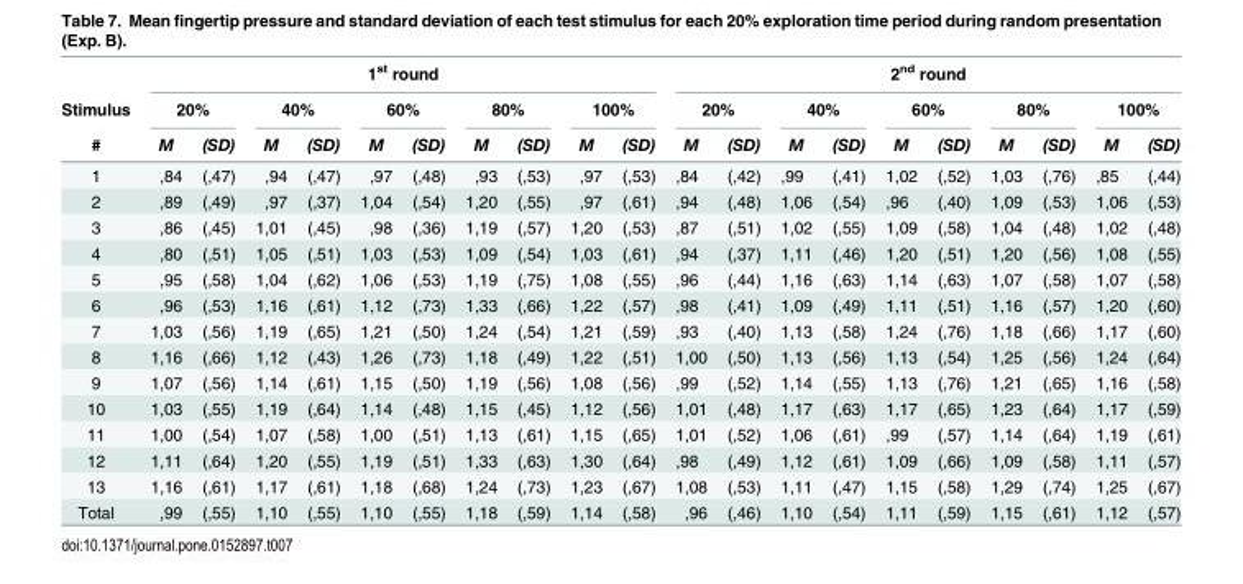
<table><thead><tr><td rowspan="3">Stimulus #</td><td colspan="10">1<sup>st</sup> round</td><td colspan="10">2<sup>nd</sup> round</td></tr><tr><td colspan="2">20%</td><td colspan="2">40%</td><td colspan="2">60%</td><td colspan="2">80%</td><td colspan="2">100%</td><td colspan="2">20%</td><td colspan="2">40%</td><td colspan="2">60%</td><td colspan="2">80%</td><td colspan="2">100%</td></tr><tr><td>M</td><td>(SD)</td><td>M</td><td>(SD)</td><td>M</td><td>(SD)</td><td>M</td><td>(SD)</td><td>M</td><td>(SD)</td><td>M</td><td>(SD)</td><td>M</td><td>(SD)</td><td>M</td><td>(SD)</td><td>M</td><td>(SD)</td><td>M</td><td>(SD)</td></tr></thead><tbody><tr><td>1</td><td>,84</td><td>(,47)</td><td>,94</td><td>(,47)</td><td>,97</td><td>(,48)</td><td>,93</td><td>(,53)</td><td>,97</td><td>(,53)</td><td>,84</td><td>(,42)</td><td>,99</td><td>(,41)</td><td>1,02</td><td>(,52)</td><td>1,03</td><td>(,76)</td><td>,85</td><td>(,44)</td></tr><tr><td>2</td><td>,89</td><td>(,49)</td><td>,97</td><td>(,37)</td><td>1,04</td><td>(,54)</td><td>1,20</td><td>(,55)</td><td>,97</td><td>(,61)</td><td>,94</td><td>(,48)</td><td>1,06</td><td>(,54)</td><td>,96</td><td>(,40)</td><td>1,09</td><td>(,53)</td><td>1,06</td><td>(,53)</td></tr><tr><td>3</td><td>,86</td><td>(,45)</td><td>1,01</td><td>(,45)</td><td>,98</td><td>(,36)</td><td>1,19</td><td>(,57)</td><td>1,20</td><td>(,53)</td><td>,87</td><td>(,51)</td><td>1,02</td><td>(,55)</td><td>1,09</td><td>(,58)</td><td>1,04</td><td>(,48)</td><td>1,02</td><td>(,48)</td></tr><tr><td>4</td><td>,80</td><td>(,51)</td><td>1,05</td><td>(,51)</td><td>1,03</td><td>(,53)</td><td>1,09</td><td>(,54)</td><td>1,03</td><td>(,61)</td><td>,94</td><td>(,37)</td><td>1,11</td><td>(,46)</td><td>1,20</td><td>(,51)</td><td>1,20</td><td>(,56)</td><td>1,08</td><td>(,55)</td></tr><tr><td>5</td><td>,95</td><td>(,58)</td><td>1,04</td><td>(,62)</td><td>1,06</td><td>(,53)</td><td>1,19</td><td>(,75)</td><td>1,08</td><td>(,55)</td><td>,96</td><td>(,44)</td><td>1,16</td><td>(,63)</td><td>1,14</td><td>(,63)</td><td>1,07</td><td>(,58)</td><td>1,07</td><td>(,58)</td></tr><tr><td>6</td><td>,96</td><td>(,53)</td><td>1,16</td><td>(,61)</td><td>1,12</td><td>(,73)</td><td>1,33</td><td>(,66)</td><td>1,22</td><td>(,57)</td><td>,98</td><td>(,41)</td><td>1,09</td><td>(,49)</td><td>1,11</td><td>(,51)</td><td>1,16</td><td>(,57)</td><td>1,20</td><td>(,60)</td></tr><tr><td>7</td><td>1,03</td><td>(,56)</td><td>1,19</td><td>(,65)</td><td>1,21</td><td>(,50)</td><td>1,24</td><td>(,54)</td><td>1,21</td><td>(,59)</td><td>,93</td><td>(,40)</td><td>1,13</td><td>(,58)</td><td>1,24</td><td>(,76)</td><td>1,18</td><td>(,66)</td><td>1,17</td><td>(,60)</td></tr><tr><td>8</td><td>1,16</td><td>(,66)</td><td>1,12</td><td>(,43)</td><td>1,26</td><td>(,73)</td><td>1,18</td><td>(,49)</td><td>1,22</td><td>(,51)</td><td>1,00</td><td>(,50)</td><td>1,13</td><td>(,56)</td><td>1,13</td><td>(,54)</td><td>1,25</td><td>(,56)</td><td>1,24</td><td>(,64)</td></tr><tr><td>9</td><td>1,07</td><td>(,56)</td><td>1,14</td><td>(,61)</td><td>1,15</td><td>(,50)</td><td>1,19</td><td>(,56)</td><td>1,08</td><td>(,56)</td><td>,99</td><td>(,52)</td><td>1,14</td><td>(,55)</td><td>1,13</td><td>(,76)</td><td>1,21</td><td>(,65)</td><td>1,16</td><td>(,58)</td></tr><tr><td>10</td><td>1,03</td><td>(,55)</td><td>1,19</td><td>(,64)</td><td>1,14</td><td>(,48)</td><td>1,15</td><td>(,45)</td><td>1,12</td><td>(,56)</td><td>1,01</td><td>(,48)</td><td>1,17</td><td>(,63)</td><td>1,17</td><td>(,65)</td><td>1,23</td><td>(,64)</td><td>1,17</td><td>(,59)</td></tr><tr><td>11</td><td>1,00</td><td>(,54)</td><td>1,07</td><td>(,58)</td><td>1,00</td><td>(,51)</td><td>1,13</td><td>(,61)</td><td>1,15</td><td>(,65)</td><td>1,01</td><td>(,52)</td><td>1,06</td><td>(,61)</td><td>,99</td><td>(,57)</td><td>1,14</td><td>(,64)</td><td>1,19</td><td>(,61)</td></tr><tr><td>12</td><td>1,11</td><td>(,64)</td><td>1,20</td><td>(,55)</td><td>1,19</td><td>(,51)</td><td>1,33</td><td>(,63)</td><td>1,30</td><td>(,64)</td><td>,98</td><td>(,49)</td><td>1,12</td><td>(,61)</td><td>1,09</td><td>(,66)</td><td>1,09</td><td>(,58)</td><td>1,11</td><td>(,57)</td></tr><tr><td>13</td><td>1,16</td><td>(,61)</td><td>1,17</td><td>(,61)</td><td>1,18</td><td>(,68)</td><td>1,24</td><td>(,73)</td><td>1,23</td><td>(,67)</td><td>1,08</td><td>(,53)</td><td>1,11</td><td>(,47)</td><td>1,15</td><td>(,58)</td><td>1,29</td><td>(,74)</td><td>1,25</td><td>(,67)</td></tr><tr><td>Total</td><td>,99</td><td>(,55)</td><td>1,10</td><td>(,55)</td><td>1,10</td><td>(,55)</td><td>1,18</td><td>(,59)</td><td>1,14</td><td>(,58)</td><td>,96</td><td>(,46)</td><td>1,10</td><td>(,54)</td><td>1,11</td><td>(,59)</td><td>1,15</td><td>(,61)</td><td>1,12</td><td>(,57)</td></tr></tbody></table>